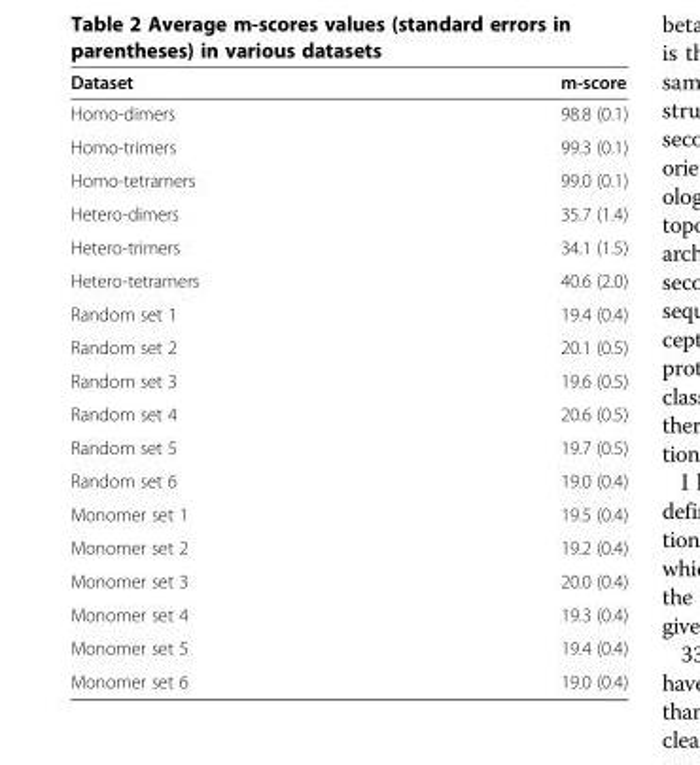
<table><thead><tr><td>Dataset</td><td>m-score</td></tr></thead><tbody><tr><td>Homo-dimers</td><td>98.8 (0.1)</td></tr><tr><td>Homo-trimers</td><td>99.3 (0.1)</td></tr><tr><td>Homo-tetramers</td><td>99.0 (0.1)</td></tr><tr><td>Hetero-dimers</td><td>35.7 (1.4)</td></tr><tr><td>Hetero-trimers</td><td>34.1 (1.5)</td></tr><tr><td>Hetero-tetramers</td><td>40.6 (2.0)</td></tr><tr><td>Random set 1</td><td>19.4 (0.4)</td></tr><tr><td>Random set 2</td><td>20.1 (0.5)</td></tr><tr><td>Random set 3</td><td>19.6 (0.5)</td></tr><tr><td>Random set 4</td><td>20.6 (0.5)</td></tr><tr><td>Random set 5</td><td>19.7 (0.5)</td></tr><tr><td>Random set 6</td><td>19.0 (0.4)</td></tr><tr><td>Monomer set 1</td><td>19.5 (0.4)</td></tr><tr><td>Monomer set 2</td><td>19.2 (0.4)</td></tr><tr><td>Monomer set 3</td><td>20.0 (0.4)</td></tr><tr><td>Monomer set 4</td><td>19.3 (0.4)</td></tr><tr><td>Monomer set 5</td><td>19.4 (0.4)</td></tr><tr><td>Monomer set 6</td><td>19.0 (0.4)</td></tr></tbody></table>